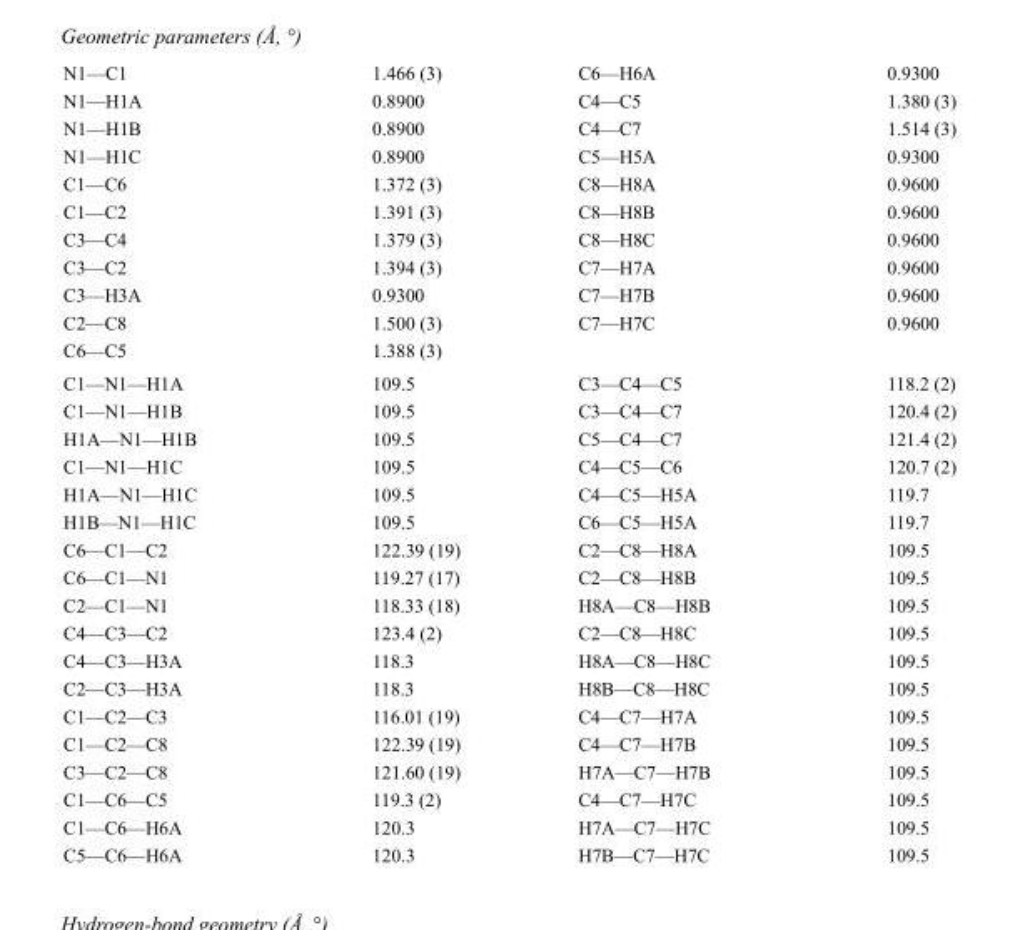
<table><tbody><tr><td>N1—C1</td><td>1.466 (3)</td><td>C6—H6A</td><td>0.9300</td></tr><tr><td>N1—H1A</td><td>0.8900</td><td>C4—C5</td><td>1.380 (3)</td></tr><tr><td>N1—H1B</td><td>0.8900</td><td>C4—C7</td><td>1.514 (3)</td></tr><tr><td>N1—H1C</td><td>0.8900</td><td>C5—H5A</td><td>0.9300</td></tr><tr><td>C1—C6</td><td>1.372 (3)</td><td>C8—H8A</td><td>0.9600</td></tr><tr><td>C1—C2</td><td>1.391 (3)</td><td>C8—H8B</td><td>0.9600</td></tr><tr><td>C3—C4</td><td>1.379 (3)</td><td>C8—H8C</td><td>0.9600</td></tr><tr><td>C3—C2</td><td>1.394 (3)</td><td>C7—H7A</td><td>0.9600</td></tr><tr><td>C3—H3A</td><td>0.9300</td><td>C7—H7B</td><td>0.9600</td></tr><tr><td>C2—C8</td><td>1.500 (3)</td><td>C7—H7C</td><td>0.9600</td></tr><tr><td>C6—C5</td><td>1.388 (3)</td><td></td><td></td></tr><tr><td>C1—N1—H1A</td><td>109.5</td><td>C3—C4—C5</td><td>118.2 (2)</td></tr><tr><td>C1—N1—H1B</td><td>109.5</td><td>C3—C4—C7</td><td>120.4 (2)</td></tr><tr><td>H1A—N1—H1B</td><td>109.5</td><td>C5—C4—C7</td><td>121.4 (2)</td></tr><tr><td>C1—N1—H1C</td><td>109.5</td><td>C4—C5—C6</td><td>120.7 (2)</td></tr><tr><td>H1A—N1—H1C</td><td>109.5</td><td>C4—C5—H5A</td><td>119.7</td></tr><tr><td>H1B—N1—H1C</td><td>109.5</td><td>C6—C5—H5A</td><td>119.7</td></tr><tr><td>C6—C1—C2</td><td>122.39 (19)</td><td>C2—C8—H8A</td><td>109.5</td></tr><tr><td>C6—C1—N1</td><td>119.27 (17)</td><td>C2—C8—H8B</td><td>109.5</td></tr><tr><td>C2—C1—N1</td><td>118.33 (18)</td><td>H8A—C8—H8B</td><td>109.5</td></tr><tr><td>C4—C3—C2</td><td>123.4 (2)</td><td>C2—C8—H8C</td><td>109.5</td></tr><tr><td>C4—C3—H3A</td><td>118.3</td><td>H8A—C8—H8C</td><td>109.5</td></tr><tr><td>C2—C3—H3A</td><td>118.3</td><td>H8B—C8—H8C</td><td>109.5</td></tr><tr><td>C1—C2—C3</td><td>116.01 (19)</td><td>C4—C7—H7A</td><td>109.5</td></tr><tr><td>C1—C2—C8</td><td>122.39 (19)</td><td>C4—C7—H7B</td><td>109.5</td></tr><tr><td>C3—C2—C8</td><td>121.60 (19)</td><td>H7A—C7—H7B</td><td>109.5</td></tr><tr><td>C1—C6—C5</td><td>119.3 (2)</td><td>C4—C7—H7C</td><td>109.5</td></tr><tr><td>C1—C6—H6A</td><td>120.3</td><td>H7A—C7—H7C</td><td>109.5</td></tr><tr><td>C5—C6—H6A</td><td>120.3</td><td>H7B—C7—H7C</td><td>109.5</td></tr></tbody></table>